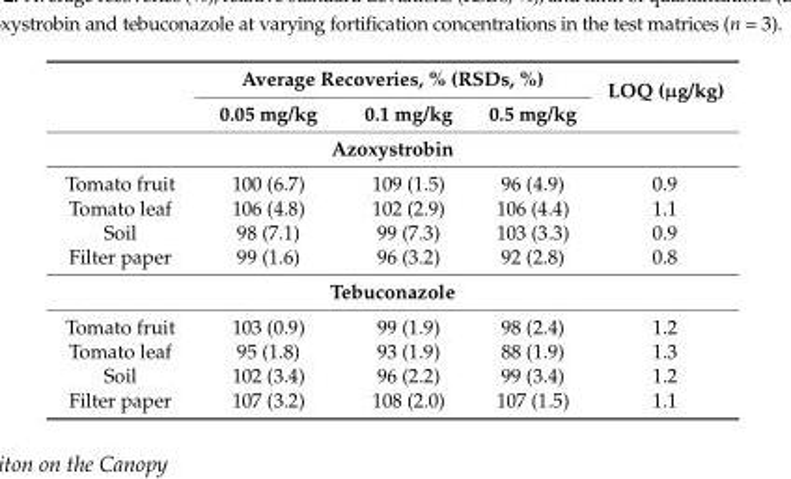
<table><thead><tr><td rowspan="2"></td><td colspan="3">Average Recoveries, % (RSDs, %)</td><td rowspan="2">LOQ (µg/kg)</td></tr><tr><td>0.05 mg/kg</td><td>0.1 mg/kg</td><td>0.5 mg/kg</td></tr></thead><tbody><tr><td colspan="5">Azoxystrobin</td></tr><tr><td>Tomato fruit</td><td>100 (6.7)</td><td>109 (1.5)</td><td>96 (4.9)</td><td>0.9</td></tr><tr><td>Tomato leaf</td><td>106 (4.8)</td><td>102 (2.9)</td><td>106 (4.4)</td><td>1.1</td></tr><tr><td>Soil</td><td>98 (7.1)</td><td>99 (7.3)</td><td>103 (3.3)</td><td>0.9</td></tr><tr><td>Filter paper</td><td>99 (1.6)</td><td>96 (3.2)</td><td>92 (2.8)</td><td>0.8</td></tr><tr><td colspan="5">Tebuconazole</td></tr><tr><td>Tomato fruit</td><td>103 (0.9)</td><td>99 (1.9)</td><td>98 (2.4)</td><td>1.2</td></tr><tr><td>Tomato leaf</td><td>95 (1.8)</td><td>93 (1.9)</td><td>88 (1.9)</td><td>1.3</td></tr><tr><td>Soil</td><td>102 (3.4)</td><td>96 (2.2)</td><td>99 (3.4)</td><td>1.2</td></tr><tr><td>Filter paper</td><td>107 (3.2)</td><td>108 (2.0)</td><td>107 (1.5)</td><td>1.1</td></tr></tbody></table>